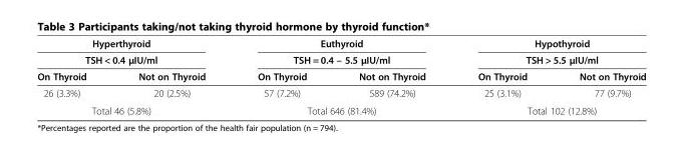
<table><thead><tr><td rowspan="2" colspan="2">Hyperthyroid TSH &lt; 0.4 μIU/ml</td><td rowspan="2" colspan="2">Euthyroid TSH = 0.4 – 5.5 μIU/ml</td><td rowspan="2" colspan="2">Hypothyroid TSH &gt; 5.5 μIU/ml</td></tr><tr></tr><tr><td>On Thyroid</td><td>Not on Thyroid</td><td>On Thyroid</td><td>Not on Thyroid</td><td>On Thyroid</td><td>Not on Thyroid</td></tr></thead><tbody><tr><td>26 (3.3%)</td><td>20 (2.5%)</td><td>57 (7.2%)</td><td>589 (74.2%)</td><td>25 (3.1%)</td><td>77 (9.7%)</td></tr><tr><td colspan="2">Total 46 (5.8%)</td><td colspan="2">Total 646 (81.4%)</td><td colspan="2">Total 102 (12.8%)</td></tr></tbody></table>